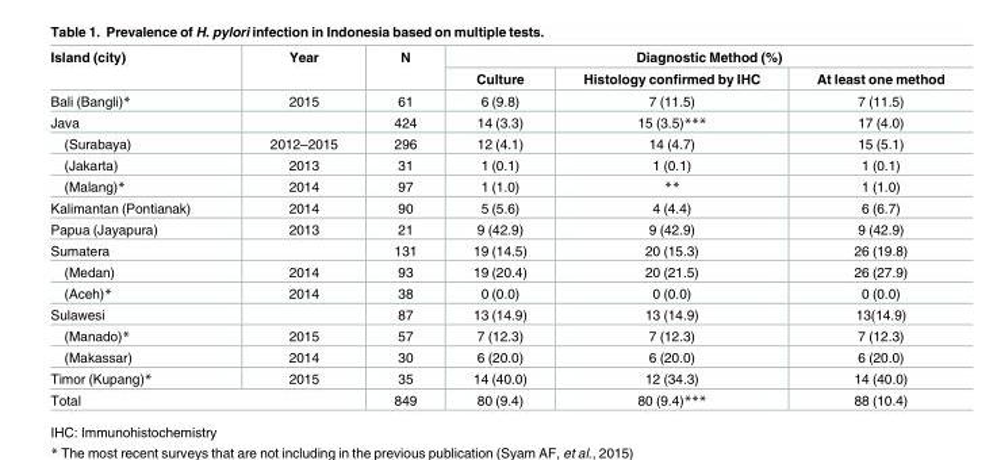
<table><thead><tr><td rowspan="2">Island (city)</td><td rowspan="2">Year</td><td rowspan="2">N</td><td colspan="3">Diagnostic Method (%)</td></tr><tr><td>Culture</td><td>Histology confirmed by IHC</td><td>At least one method</td></tr></thead><tbody><tr><td>Bali (Bangli)*</td><td>2015</td><td>61</td><td>6 (9.8)</td><td>7 (11.5)</td><td>7 (11.5)</td></tr><tr><td>Java</td><td></td><td>424</td><td>14 (3.3)</td><td>15 (3.5)***</td><td>17 (4.0)</td></tr><tr><td>(Surabaya)</td><td>2012–2015</td><td>296</td><td>12 (4.1)</td><td>14 (4.7)</td><td>15 (5.1)</td></tr><tr><td>(Jakarta)</td><td>2013</td><td>31</td><td>1 (0.1)</td><td>1 (0.1)</td><td>1 (0.1)</td></tr><tr><td>(Malang)*</td><td>2014</td><td>97</td><td>1 (1.0)</td><td>**</td><td>1 (1.0)</td></tr><tr><td>Kalimantan (Pontianak)</td><td>2014</td><td>90</td><td>5 (5.6)</td><td>4 (4.4)</td><td>6 (6.7)</td></tr><tr><td>Papua (Jayapura)</td><td>2013</td><td>21</td><td>9 (42.9)</td><td>9 (42.9)</td><td>9 (42.9)</td></tr><tr><td>Sumatera</td><td></td><td>131</td><td>19 (14.5)</td><td>20 (15.3)</td><td>26 (19.8)</td></tr><tr><td>(Medan)</td><td>2014</td><td>93</td><td>19 (20.4)</td><td>20 (21.5)</td><td>26 (27.9)</td></tr><tr><td>(Aceh)*</td><td>2014</td><td>38</td><td>0 (0.0)</td><td>0 (0.0)</td><td>0 (0.0)</td></tr><tr><td>Sulawesi</td><td></td><td>87</td><td>13 (14.9)</td><td>13 (14.9)</td><td>13(14.9)</td></tr><tr><td>(Manado)*</td><td>2015</td><td>57</td><td>7 (12.3)</td><td>7 (12.3)</td><td>7 (12.3)</td></tr><tr><td>(Makassar)</td><td>2014</td><td>30</td><td>6 (20.0)</td><td>6 (20.0)</td><td>6 (20.0)</td></tr><tr><td>Timor (Kupang)*</td><td>2015</td><td>35</td><td>14 (40.0)</td><td>12 (34.3)</td><td>14 (40.0)</td></tr><tr><td colspan="2">Total</td><td>849</td><td>80 (9.4)</td><td>80 (9.4)***</td><td>88 (10.4)</td></tr></tbody></table>